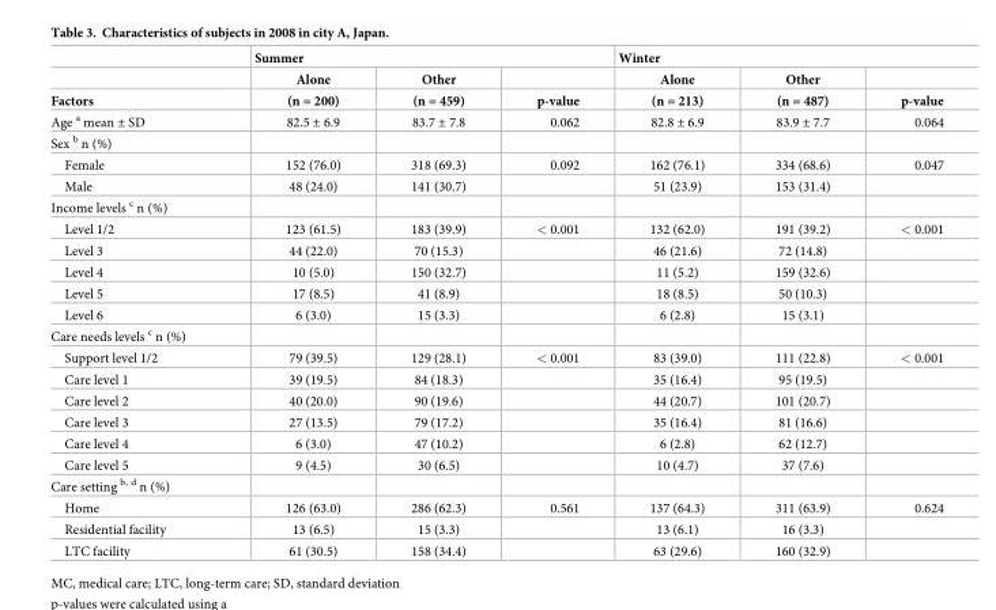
<table><thead><tr><td rowspan="3">Factors</td><td colspan="3">Summer</td><td colspan="3">Winter</td></tr><tr><td rowspan="2">Alone (n = 200)</td><td rowspan="2">Other (n = 459)</td><td rowspan="2">p-value</td><td rowspan="2">Alone (n = 213)</td><td rowspan="2">Other (n = 487)</td><td rowspan="2">p-value</td></tr><tr></tr></thead><tbody><tr><td>Age <sup>a</sup> mean ± SD</td><td>82.5 ± 6.9</td><td>83.7 ± 7.8</td><td>0.062</td><td>82.8 ± 6.9</td><td>83.9 ± 7.7</td><td>0.064</td></tr><tr><td colspan="7">Sex <sup>b</sup> n (%)</td></tr><tr><td>Female</td><td>152 (76.0)</td><td>318 (69.3)</td><td>0.092</td><td>162 (76.1)</td><td>334 (68.6)</td><td>0.047</td></tr><tr><td>Male</td><td>48 (24.0)</td><td>141 (30.7)</td><td></td><td>51 (23.9)</td><td>153 (31.4)</td><td></td></tr><tr><td colspan="7">Income levels <sup>c</sup> n (%)</td></tr><tr><td>Level 1/2</td><td>123 (61.5)</td><td>183 (39.9)</td><td>&lt; 0.001</td><td>132 (62.0)</td><td>191 (39.2)</td><td>&lt; 0.001</td></tr><tr><td>Level 3</td><td>44 (22.0)</td><td>70 (15.3)</td><td></td><td>46 (21.6)</td><td>72 (14.8)</td><td></td></tr><tr><td>Level 4</td><td>10 (5.0)</td><td>150 (32.7)</td><td></td><td>11 (5.2)</td><td>159 (32.6)</td><td></td></tr><tr><td>Level 5</td><td>17 (8.5)</td><td>41 (8.9)</td><td></td><td>18 (8.5)</td><td>50 (10.3)</td><td></td></tr><tr><td>Level 6</td><td>6 (3.0)</td><td>15 (3.3)</td><td></td><td>6 (2.8)</td><td>15 (3.1)</td><td></td></tr><tr><td colspan="7">Care needs levels <sup>c</sup> n (%)</td></tr><tr><td>Support level 1/2</td><td>79 (39.5)</td><td>129 (28.1)</td><td>&lt; 0.001</td><td>83 (39.0)</td><td>111 (22.8)</td><td>&lt; 0.001</td></tr><tr><td>Care level 1</td><td>39 (19.5)</td><td>84 (18.3)</td><td></td><td>35 (16.4)</td><td>95 (19.5)</td><td></td></tr><tr><td>Care level 2</td><td>40 (20.0)</td><td>90 (19.6)</td><td></td><td>44 (20.7)</td><td>101 (20.7)</td><td></td></tr><tr><td>Care level 3</td><td>27 (13.5)</td><td>79 (17.2)</td><td></td><td>35 (16.4)</td><td>81 (16.6)</td><td></td></tr><tr><td>Care level 4</td><td>6 (3.0)</td><td>47 (10.2)</td><td></td><td>6 (2.8)</td><td>62 (12.7)</td><td></td></tr><tr><td>Care level 5</td><td>9 (4.5)</td><td>30 (6.5)</td><td></td><td>10 (4.7)</td><td>37 (7.6)</td><td></td></tr><tr><td colspan="7">Care setting <sup>b, d</sup> n (%)</td></tr><tr><td>Home</td><td>126 (63.0)</td><td>286 (62.3)</td><td>0.561</td><td>137 (64.3)</td><td>311 (63.9)</td><td>0.624</td></tr><tr><td>Residential facility</td><td>13 (6.5)</td><td>15 (3.3)</td><td></td><td>13 (6.1)</td><td>16 (3.3)</td><td></td></tr><tr><td>LTC facility</td><td>61 (30.5)</td><td>158 (34.4)</td><td></td><td>63 (29.6)</td><td>160 (32.9)</td><td></td></tr></tbody></table>